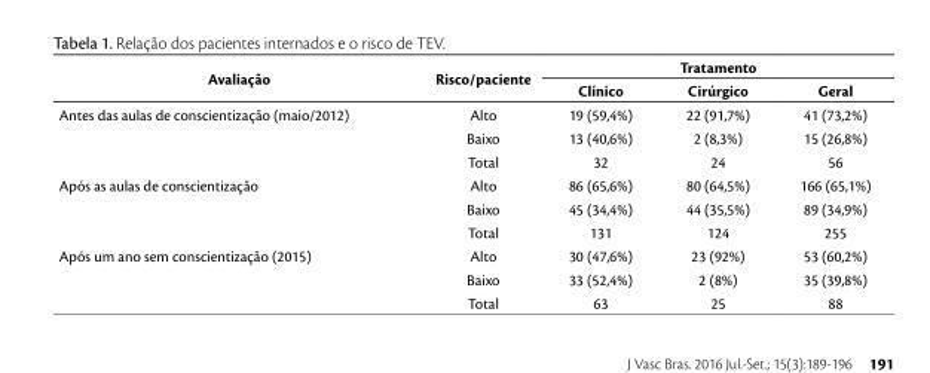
<table><thead><tr><td rowspan="2">Avaliação</td><td rowspan="2">Risco/paciente</td><td colspan="3">Tratamento</td></tr><tr><td>Clínico</td><td>Cirúrgico</td><td>Geral</td></tr></thead><tbody><tr><td rowspan="3">Antes das aulas de conscientização (maio/2012)</td><td>Alto</td><td>19 (59,4%)</td><td>22 (91,7%)</td><td>41 (73,2%)</td></tr><tr><td>Baixo</td><td>13 (40,6%)</td><td>2 (8,3%)</td><td>15 (26,8%)</td></tr><tr><td>Total</td><td>32</td><td>24</td><td>56</td></tr><tr><td rowspan="3">Após as aulas de conscientização</td><td>Alto</td><td>86 (65,6%)</td><td>80 (64,5%)</td><td>166 (65,1%)</td></tr><tr><td>Baixo</td><td>45 (34,4%)</td><td>44 (35,5%)</td><td>89 (34,9%)</td></tr><tr><td>Total</td><td>131</td><td>124</td><td>255</td></tr><tr><td rowspan="3">Após um ano sem conscientização (2015)</td><td>Alto</td><td>30 (47,6%)</td><td>23 (92%)</td><td>53 (60,2%)</td></tr><tr><td>Baixo</td><td>33 (52,4%)</td><td>2 (8%)</td><td>35 (39,8%)</td></tr><tr><td>Total</td><td>63</td><td>25</td><td>88</td></tr></tbody></table>